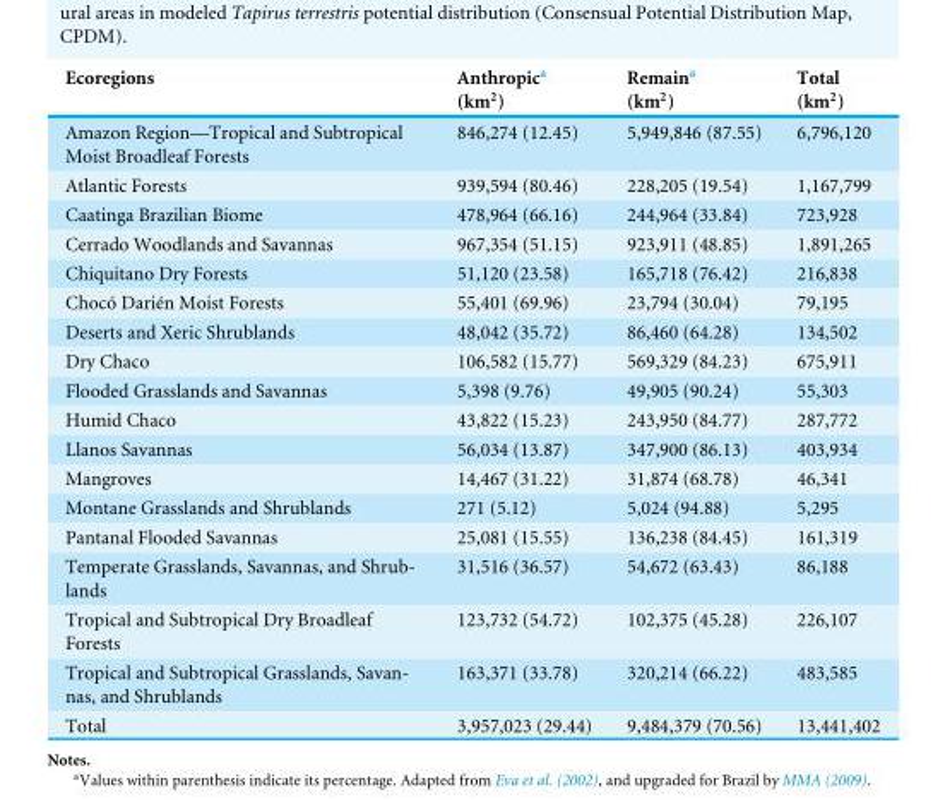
<table><thead><tr><td>Ecoregions</td><td>Anthropic<sup>a</sup> (km<sup>2</sup>)</td><td>Remain<sup>a</sup> (km<sup>2</sup>)</td><td>Total (km<sup>2</sup>)</td></tr></thead><tbody><tr><td>Amazon Region—Tropical and Subtropical Moist Broadleaf Forests</td><td>846,274 (12.45)</td><td>5,949,846 (87.55)</td><td>6,796,120</td></tr><tr><td>Atlantic Forests</td><td>939,594 (80.46)</td><td>228,205 (19.54)</td><td>1,167,799</td></tr><tr><td>Caatinga Brazilian Biome</td><td>478,964 (66.16)</td><td>244,964 (33.84)</td><td>723,928</td></tr><tr><td>Cerrado Woodlands and Savannas</td><td>967,354 (51.15)</td><td>923,911 (48.85)</td><td>1,891,265</td></tr><tr><td>Chiquitano Dry Forests</td><td>51,120 (23.58)</td><td>165,718 (76.42)</td><td>216,838</td></tr><tr><td>Chocó Darién Moist Forests</td><td>55,401 (69.96)</td><td>23,794 (30.04)</td><td>79,195</td></tr><tr><td>Deserts and Xeric Shrublands</td><td>48,042 (35.72)</td><td>86,460 (64.28)</td><td>134,502</td></tr><tr><td>Dry Chaco</td><td>106,582 (15.77)</td><td>569,329 (84.23)</td><td>675,911</td></tr><tr><td>Flooded Grasslands and Savannas</td><td>5,398 (9.76)</td><td>49,905 (90.24)</td><td>55,303</td></tr><tr><td>Humid Chaco</td><td>43,822 (15.23)</td><td>243,950 (84.77)</td><td>287,772</td></tr><tr><td>Llanos Savannas</td><td>56,034 (13.87)</td><td>347,900 (86.13)</td><td>403,934</td></tr><tr><td>Mangroves</td><td>14,467 (31.22)</td><td>31,874 (68.78)</td><td>46,341</td></tr><tr><td>Montane Grasslands and Shrublands</td><td>271 (5.12)</td><td>5,024 (94.88)</td><td>5,295</td></tr><tr><td>Pantanal Flooded Savannas</td><td>25,081 (15.55)</td><td>136,238 (84.45)</td><td>161,319</td></tr><tr><td>Temperate Grasslands, Savannas, and Shrub- lands</td><td>31,516 (36.57)</td><td>54,672 (63.43)</td><td>86,188</td></tr><tr><td>Tropical and Subtropical Dry Broadleaf Forests</td><td>123,732 (54.72)</td><td>102,375 (45.28)</td><td>226,107</td></tr><tr><td>Tropical and Subtropical Grasslands, Savan- nas, and Shrublands</td><td>163,371 (33.78)</td><td>320,214 (66.22)</td><td>483,585</td></tr><tr><td>Total</td><td>3,957,023 (29.44)</td><td>9,484,379 (70.56)</td><td>13,441,402</td></tr></tbody></table>